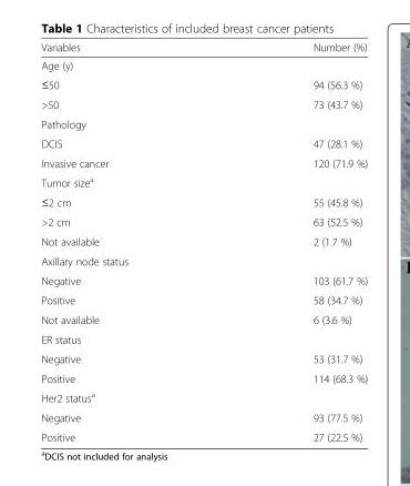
<table><thead><tr><td>Variables</td><td>Number (%)</td></tr></thead><tbody><tr><td colspan="2">Age (y)</td></tr><tr><td>≤50</td><td>94 (56.3 %)</td></tr><tr><td>&gt;50</td><td>73 (43.7 %)</td></tr><tr><td colspan="2">Pathology</td></tr><tr><td>DCIS</td><td>47 (28.1 %)</td></tr><tr><td>Invasive cancer</td><td>120 (71.9 %)</td></tr><tr><td colspan="2">Tumor size<sup>a</sup></td></tr><tr><td>≤2 cm</td><td>55 (45.8 %)</td></tr><tr><td>&gt;2 cm</td><td>63 (52.5 %)</td></tr><tr><td>Not available</td><td>2 (1.7 %)</td></tr><tr><td colspan="2">Axillary node status</td></tr><tr><td>Negative</td><td>103 (61.7 %)</td></tr><tr><td>Positive</td><td>58 (34.7 %)</td></tr><tr><td>Not available</td><td>6 (3.6 %)</td></tr><tr><td colspan="2">ER status</td></tr><tr><td>Negative</td><td>53 (31.7 %)</td></tr><tr><td>Positive</td><td>114 (68.3 %)</td></tr><tr><td colspan="2">Her2 status<sup>a</sup></td></tr><tr><td>Negative</td><td>93 (77.5 %)</td></tr><tr><td>Positive</td><td>27 (22.5 %)</td></tr></tbody></table>